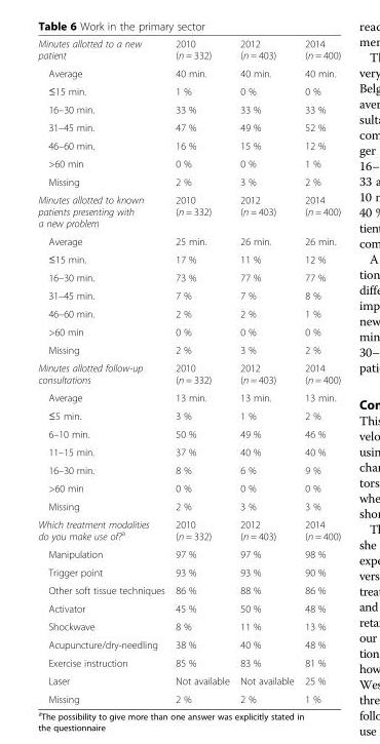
<table><tbody><tr><td>Minutes allotted to a new patient</td><td>2010 (n = 332)</td><td>2012 (n = 403)</td><td>2014 (n = 400)</td></tr><tr><td>Average</td><td>40 min.</td><td>40 min.</td><td>40 min.</td></tr><tr><td>≤15 min.</td><td>1 %</td><td>0 %</td><td>0 %</td></tr><tr><td>16–30 min.</td><td>33 %</td><td>33 %</td><td>33 %</td></tr><tr><td>31–45 min.</td><td>47 %</td><td>49 %</td><td>52 %</td></tr><tr><td>46–60 min.</td><td>16 %</td><td>15 %</td><td>12 %</td></tr><tr><td>&gt;60 min</td><td>0 %</td><td>0 %</td><td>1 %</td></tr><tr><td>Missing</td><td>2 %</td><td>3 %</td><td>2 %</td></tr><tr><td>Minutes allotted to known patients presenting with a new problem</td><td>2010 (n = 332)</td><td>2012 (n = 403)</td><td>2014 (n = 400)</td></tr><tr><td>Average</td><td>25 min.</td><td>26 min.</td><td>26 min.</td></tr><tr><td>≤15 min.</td><td>17 %</td><td>11 %</td><td>12 %</td></tr><tr><td>16–30 min.</td><td>73 %</td><td>77 %</td><td>77 %</td></tr><tr><td>31–45 min.</td><td>7 %</td><td>7 %</td><td>8 %</td></tr><tr><td>46–60 min.</td><td>2 %</td><td>2 %</td><td>1 %</td></tr><tr><td>&gt;60 min</td><td>0 %</td><td>0 %</td><td>0 %</td></tr><tr><td>Missing</td><td>2 %</td><td>3 %</td><td>2 %</td></tr><tr><td>Minutes allotted follow-up consultations</td><td>2010 (n = 332)</td><td>2012 (n = 403)</td><td>2014 (n = 400)</td></tr><tr><td>Average</td><td>13 min.</td><td>13 min.</td><td>13 min.</td></tr><tr><td>≤5 min.</td><td>3 %</td><td>1 %</td><td>2 %</td></tr><tr><td>6–10 min.</td><td>50 %</td><td>49 %</td><td>46 %</td></tr><tr><td>11–15 min.</td><td>37 %</td><td>40 %</td><td>40 %</td></tr><tr><td>16–30 min.</td><td>8 %</td><td>6 %</td><td>9 %</td></tr><tr><td>&gt;60 min</td><td>0 %</td><td>0 %</td><td>0 %</td></tr><tr><td>Missing</td><td>2 %</td><td>3 %</td><td>3 %</td></tr><tr><td>Which treatment modalities do you make use of?<sup>a</sup></td><td>2010 (n = 332)</td><td>2012 (n = 403)</td><td>2014 (n = 400)</td></tr><tr><td>Manipulation</td><td>97 %</td><td>97 %</td><td>98 %</td></tr><tr><td>Trigger point</td><td>93 %</td><td>93 %</td><td>90 %</td></tr><tr><td>Other soft tissue techniques</td><td>86 %</td><td>88 %</td><td>86 %</td></tr><tr><td>Activator</td><td>45 %</td><td>50 %</td><td>48 %</td></tr><tr><td>Shockwave</td><td>8 %</td><td>11 %</td><td>13 %</td></tr><tr><td>Acupuncture/dry-needling</td><td>38 %</td><td>40 %</td><td>48 %</td></tr><tr><td>Exercise instruction</td><td>85 %</td><td>83 %</td><td>81 %</td></tr><tr><td>Laser</td><td>Not available</td><td>Not available</td><td>25 %</td></tr><tr><td>Missing</td><td>2 %</td><td>2 %</td><td>1 %</td></tr></tbody></table>